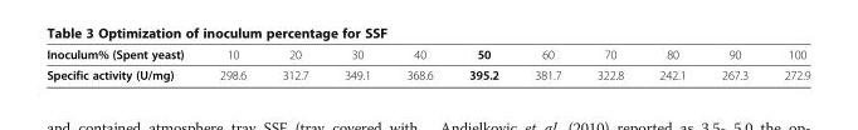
<table><tbody><tr><td>Inoculum% (Spent yeast)</td><td>10</td><td>20</td><td>30</td><td>40</td><td>50</td><td>60</td><td>70</td><td>80</td><td>90</td><td>100</td></tr><tr><td>Specific activity (U/mg)</td><td>298.6</td><td>312.7</td><td>349.1</td><td>368.6</td><td>395.2</td><td>381.7</td><td>322.8</td><td>242.1</td><td>267.3</td><td>272.9</td></tr></tbody></table>